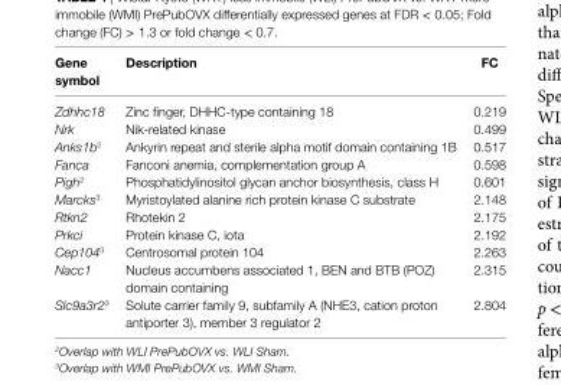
<table><thead><tr><td>gene symbol</td><td>Description</td><td>Fc</td></tr></thead><tbody><tr><td>Zdhhc18</td><td>Zinc finger, DHHC-type containing 18</td><td>0.219</td></tr><tr><td>Nrk</td><td>Nik-related kinase</td><td>0.499</td></tr><tr><td>Anks1b<sup>2</sup></td><td>Ankyrin repeat and sterile alpha motif domain containing 1B</td><td>0.517</td></tr><tr><td>Fanca</td><td>Fanconi anemia, complementation group A</td><td>0.598</td></tr><tr><td>Pigh<sup>2</sup></td><td>Phosphatidylinositol glycan anchor biosynthesis, class H</td><td>0.601</td></tr><tr><td>Marcks<sup>3</sup></td><td>Myristoylated alanine rich protein kinase C substrate</td><td>2.148</td></tr><tr><td>Rtkn2</td><td>Rhotekin 2</td><td>2.175</td></tr><tr><td>Prkci</td><td>Protein kinase C, iota</td><td>2.192</td></tr><tr><td>Cep104<sup>3</sup></td><td>Centrosomal protein 104</td><td>2.263</td></tr><tr><td>Nacc1</td><td>Nucleus accumbens associated 1, BEN and BTB (POZ) domain containing</td><td>2.315</td></tr><tr><td>Slc9a3r2<sup>3</sup></td><td>Solute carrier family 9, subfamily A (NHE3, cation proton antiporter 3), member 3 regulator 2</td><td>2.804</td></tr></tbody></table>